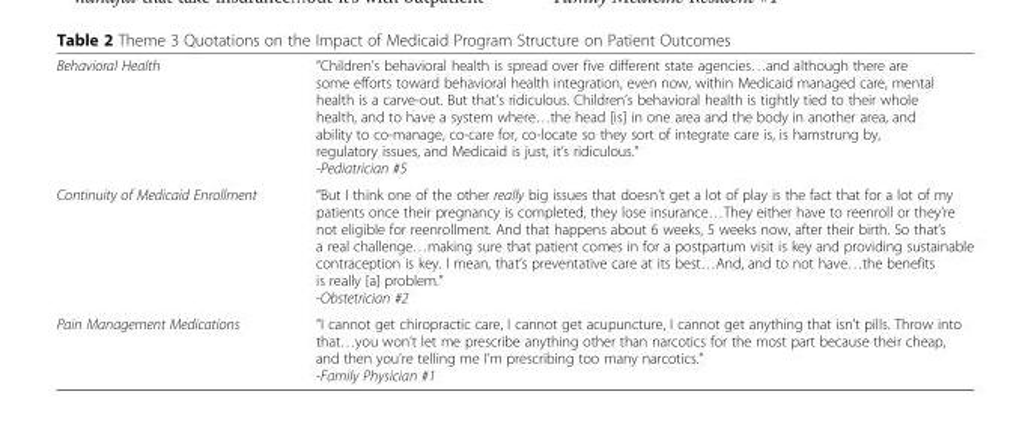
<table><tbody><tr><td>Behavioral Health</td><td>“Children’s behavioral health is spread over five different state agencies…and although there are some efforts toward behavioral health integration, even now, within Medicaid managed care, mental health is a carve-out. But that’s ridiculous. Children’s behavioral health is tightly tied to their whole health, and to have a system where…the head [is] in one area and the body in another area, and ability to co-manage, co-care for, co-locate so they sort of integrate care is, is hamstrung by, regulatory issues, and Medicaid is just, it’s ridiculous.” -Pediatrician #5</td></tr><tr><td>Continuity of Medicaid Enrollment</td><td>“But I think one of the other really big issues that doesn’t get a lot of play is the fact that for a lot of my patients once their pregnancy is completed, they lose insurance…They either have to reenroll or they’re not eligible for reenrollment. And that happens about 6 weeks, 5 weeks now, after their birth. So that’s a real challenge…making sure that patient comes in for a postpartum visit is key and providing sustainable contraception is key. I mean, that’s preventative care at its best…And, and to not have…the benefits is really [a] problem.” -Obstetrician #2</td></tr><tr><td>Pain Management Medications</td><td>“I cannot get chiropractic care, I cannot get acupuncture, I cannot get anything that isn’t pills. Throw into that…you won’t let me prescribe anything other than narcotics for the most part because their cheap, and then you’re telling me I’m prescribing too many narcotics.” -Family Physician #1</td></tr></tbody></table>